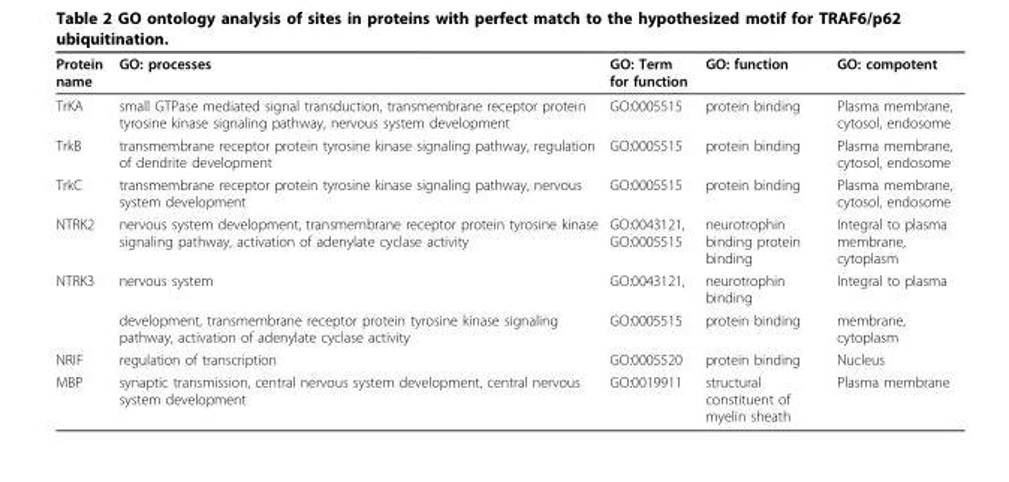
<table><thead><tr><td>Protein name</td><td>GO: processes</td><td>GO: Term for function</td><td>GO: function</td><td>GO: compotent</td></tr></thead><tbody><tr><td>TrKA</td><td>small GTPase mediated signal transduction, transmembrane receptor protein tyrosine kinase signaling pathway, nervous system development</td><td>GO:0005515</td><td>protein binding</td><td>Plasma membrane, cytosol, endosome</td></tr><tr><td>TrkB</td><td>transmembrane receptor protein tyrosine kinase signaling pathway, regulation of dendrite development</td><td>GO:0005515</td><td>protein binding</td><td>Plasma membrane, cytosol, endosome</td></tr><tr><td>TrkC</td><td>transmembrane receptor protein tyrosine kinase signaling pathway, nervous system development</td><td>GO:0005515</td><td>protein binding</td><td>Plasma membrane, cytosol, endosome</td></tr><tr><td>NTRK2</td><td>nervous system development, transmembrane receptor protein tyrosine kinase signaling pathway, activation of adenylate cyclase activity</td><td>GO:0043121, GO:0005515</td><td>neurotrophin binding protein binding</td><td>Integral to plasma membrane, cytoplasm</td></tr><tr><td rowspan="2">NTRK3</td><td>nervous system</td><td>GO:0043121,</td><td>neurotrophin binding</td><td>Integral to plasma</td></tr><tr><td>development, transmembrane receptor protein tyrosine kinase signaling pathway, activation of adenylate cyclase activity</td><td>GO:0005515</td><td>protein binding</td><td>membrane, cytoplasm</td></tr><tr><td>NRIF</td><td>regulation of transcription</td><td>GO:0005520</td><td>protein binding</td><td>Nucleus</td></tr><tr><td>MBP</td><td>synaptic transmission, central nervous system development, central nervous system development</td><td>GO:0019911</td><td>structural constituent of myelin sheath</td><td>Plasma membrane</td></tr></tbody></table>